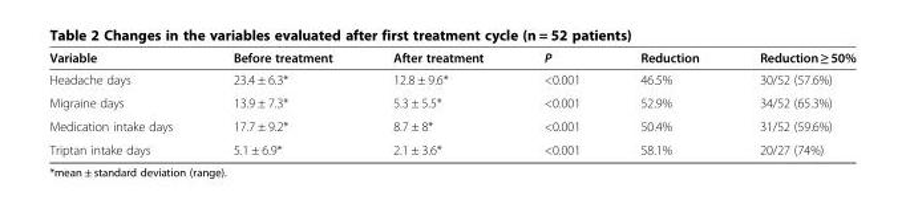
<table><thead><tr><td>Variable</td><td>Before treatment</td><td>After treatment</td><td>P</td><td>Reduction</td><td>Reduction ≥ 50%</td></tr></thead><tbody><tr><td>Headache days</td><td>23.4 ± 6.3*</td><td>12.8 ± 9.6*</td><td>&lt;0.001</td><td>46.5%</td><td>30/52 (57.6%)</td></tr><tr><td>Migraine days</td><td>13.9 ± 7.3*</td><td>5.3 ± 5.5*</td><td>&lt;0.001</td><td>52.9%</td><td>34/52 (65.3%)</td></tr><tr><td>Medication intake days</td><td>17.7 ± 9.2*</td><td>8.7 ± 8*</td><td>&lt;0.001</td><td>50.4%</td><td>31/52 (59.6%)</td></tr><tr><td>Triptan intake days</td><td>5.1 ± 6.9*</td><td>2.1 ± 3.6*</td><td>&lt;0.001</td><td>58.1%</td><td>20/27 (74%)</td></tr></tbody></table>